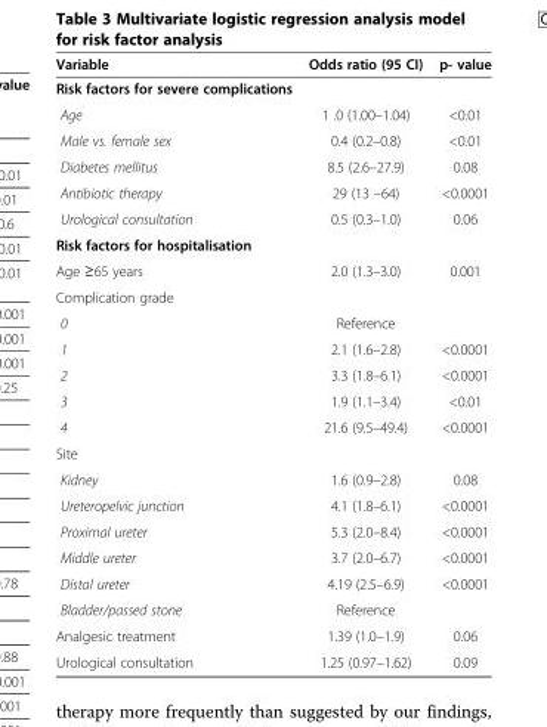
<table><thead><tr><td>Variable</td><td>Odds ratio (95 CI)</td><td>p- value</td></tr></thead><tbody><tr><td colspan="3">Risk factors for severe complications</td></tr><tr><td>Age</td><td>1 .0 (1.00–1.04)</td><td>&lt;0.01</td></tr><tr><td>Male vs. female sex</td><td>0.4 (0.2–0.8)</td><td>&lt;0.01</td></tr><tr><td>Diabetes mellitus</td><td>8.5 (2.6–27.9)</td><td>0.08</td></tr><tr><td>Antibiotic therapy</td><td>29 (13 –64)</td><td>&lt;0.0001</td></tr><tr><td>Urological consultation</td><td>0.5 (0.3–1.0)</td><td>0.06</td></tr><tr><td colspan="3">Risk factors for hospitalisation</td></tr><tr><td>Age ≥65 years</td><td>2.0 (1.3–3.0)</td><td>0.001</td></tr><tr><td colspan="3">Complication grade</td></tr><tr><td>0</td><td>Reference</td><td></td></tr><tr><td>1</td><td>2.1 (1.6–2.8)</td><td>&lt;0.0001</td></tr><tr><td>2</td><td>3.3 (1.8–6.1)</td><td>&lt;0.0001</td></tr><tr><td>3</td><td>1.9 (1.1–3.4)</td><td>&lt;0.01</td></tr><tr><td>4</td><td>21.6 (9.5–49.4)</td><td>&lt;0.0001</td></tr><tr><td colspan="3">Site</td></tr><tr><td>Kidney</td><td>1.6 (0.9–2.8)</td><td>0.08</td></tr><tr><td>Ureteropelvic junction</td><td>4.1 (1.8–6.1)</td><td>&lt;0.0001</td></tr><tr><td>Proximal ureter</td><td>5.3 (2.0–8.4)</td><td>&lt;0.0001</td></tr><tr><td>Middle ureter</td><td>3.7 (2.0–6.7)</td><td>&lt;0.0001</td></tr><tr><td>Distal ureter</td><td>4.19 (2.5–6.9)</td><td>&lt;0.0001</td></tr><tr><td>Bladder/passed stone</td><td>Reference</td><td></td></tr><tr><td>Analgesic treatment</td><td>1.39 (1.0–1.9)</td><td>0.06</td></tr><tr><td>Urological consultation</td><td>1.25 (0.97–1.62)</td><td>0.09</td></tr></tbody></table>